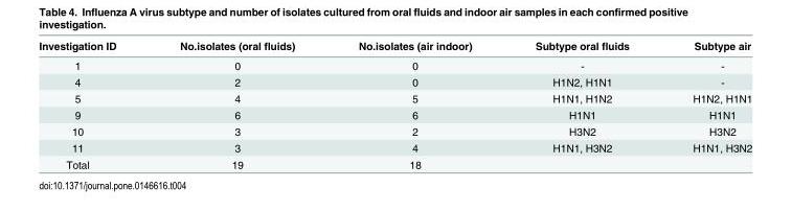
<table><thead><tr><td>Investigation ID</td><td>No.isolates (oral fluids)</td><td>No.isolates (air indoor)</td><td>Subtype oral fluids</td><td>Subtype air</td></tr></thead><tbody><tr><td>1</td><td>0</td><td>0</td><td>-</td><td>-</td></tr><tr><td>4</td><td>2</td><td>0</td><td>H1N2, H1N1</td><td>-</td></tr><tr><td>5</td><td>4</td><td>5</td><td>H1N1, H1N2</td><td>H1N2, H1N1</td></tr><tr><td>9</td><td>6</td><td>6</td><td>H1N1</td><td>H1N1</td></tr><tr><td>10</td><td>3</td><td>2</td><td>H3N2</td><td>H3N2</td></tr><tr><td>11</td><td>3</td><td>4</td><td>H1N1, H3N2</td><td>H1N1, H3N2</td></tr><tr><td>Total</td><td>19</td><td>18</td><td></td><td></td></tr></tbody></table>